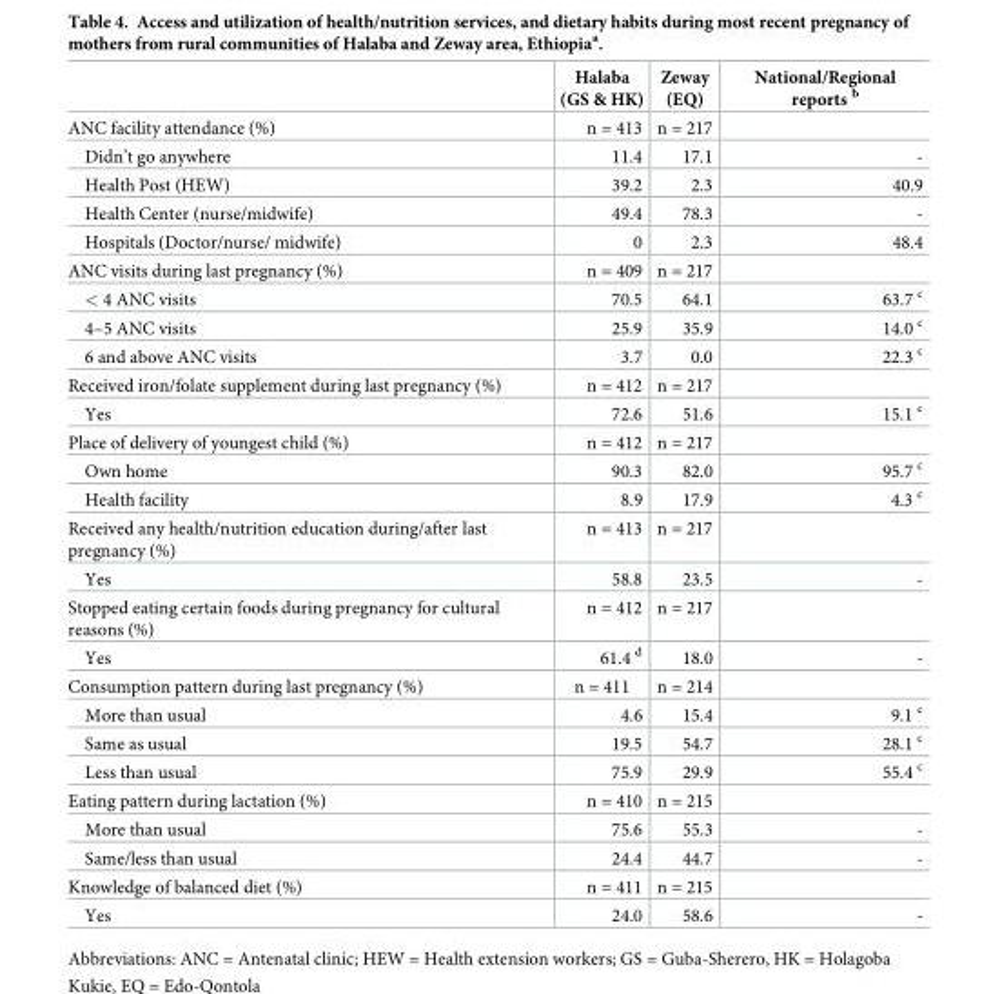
<table><thead><tr><td></td><td>Halaba (GS &amp; HK)</td><td>Zeway (EQ)</td><td>National/Regional reports <sup>b</sup></td></tr></thead><tbody><tr><td>ANC facility attendance (%)</td><td>n = 413</td><td>n = 217</td><td></td></tr><tr><td>Didn’t go anywhere</td><td>11.4</td><td>17.1</td><td>-</td></tr><tr><td>Health Post (HEW)</td><td>39.2</td><td>2.3</td><td>40.9</td></tr><tr><td>Health Center (nurse/midwife)</td><td>49.4</td><td>78.3</td><td>-</td></tr><tr><td>Hospitals (Doctor/nurse/ midwife)</td><td>0</td><td>2.3</td><td>48.4</td></tr><tr><td>ANC visits during last pregnancy (%)</td><td>n = 409</td><td>n = 217</td><td></td></tr><tr><td>&lt; 4 ANC visits</td><td>70.5</td><td>64.1</td><td>63.7 <sup>c</sup></td></tr><tr><td>4–5 ANC visits</td><td>25.9</td><td>35.9</td><td>14.0 <sup>c</sup></td></tr><tr><td>6 and above ANC visits</td><td>3.7</td><td>0.0</td><td>22.3 <sup>c</sup></td></tr><tr><td>Received iron/folate supplement during last pregnancy (%)</td><td>n = 412</td><td>n = 217</td><td></td></tr><tr><td>Yes</td><td>72.6</td><td>51.6</td><td>15.1 <sup>c</sup></td></tr><tr><td>Place of delivery of youngest child (%)</td><td>n = 412</td><td>n = 217</td><td></td></tr><tr><td>Own home</td><td>90.3</td><td>82.0</td><td>95.7 <sup>c</sup></td></tr><tr><td>Health facility</td><td>8.9</td><td>17.9</td><td>4.3 <sup>c</sup></td></tr><tr><td>Received any health/nutrition education during/after last pregnancy (%)</td><td>n = 413</td><td>n = 217</td><td></td></tr><tr><td>Yes</td><td>58.8</td><td>23.5</td><td>-</td></tr><tr><td>Stopped eating certain foods during pregnancy for cultural reasons (%)</td><td>n = 412</td><td>n = 217</td><td></td></tr><tr><td>Yes</td><td>61.4 <sup>d</sup></td><td>18.0</td><td>-</td></tr><tr><td>Consumption pattern during last pregnancy (%)</td><td>n = 411</td><td>n = 214</td><td></td></tr><tr><td>More than usual</td><td>4.6</td><td>15.4</td><td>9.1 <sup>c</sup></td></tr><tr><td>Same as usual</td><td>19.5</td><td>54.7</td><td>28.1 <sup>c</sup></td></tr><tr><td>Less than usual</td><td>75.9</td><td>29.9</td><td>55.4 <sup>c</sup></td></tr><tr><td>Eating pattern during lactation (%)</td><td>n = 410</td><td>n = 215</td><td></td></tr><tr><td>More than usual</td><td>75.6</td><td>55.3</td><td>-</td></tr><tr><td>Same/less than usual</td><td>24.4</td><td>44.7</td><td>-</td></tr><tr><td>Knowledge of balanced diet (%)</td><td>n = 411</td><td>n = 215</td><td></td></tr><tr><td>Yes</td><td>24.0</td><td>58.6</td><td>-</td></tr></tbody></table>